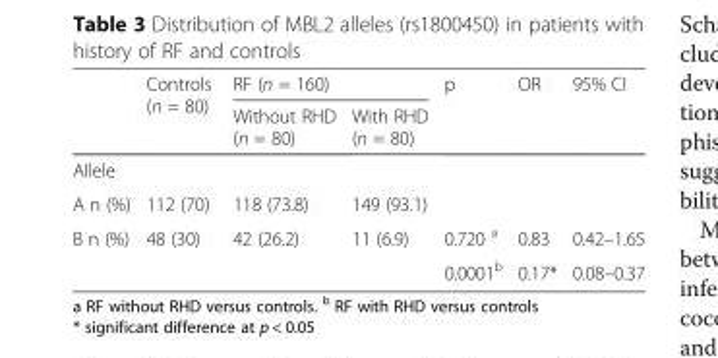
<table><thead><tr><td rowspan="2"></td><td rowspan="2">Controls (n = 80)</td><td colspan="2">RF (n = 160)</td><td rowspan="2">p</td><td rowspan="2">OR</td><td rowspan="2">95% CI</td></tr><tr><td>Without RHD (n = 80)</td><td>With RHD (n = 80)</td></tr></thead><tbody><tr><td colspan="7">Allele</td></tr><tr><td>A n (%)</td><td>112 (70)</td><td>118 (73.8)</td><td>149 (93.1)</td><td></td><td></td><td></td></tr><tr><td rowspan="2">B n (%)</td><td rowspan="2">48 (30)</td><td rowspan="2">42 (26.2)</td><td rowspan="2">11 (6.9)</td><td>0.720 <sup>a</sup></td><td>0.83</td><td>0.42–1.65</td></tr><tr><td>0.0001<sup>b</sup></td><td>0.17*</td><td>0.08–0.37</td></tr></tbody></table>